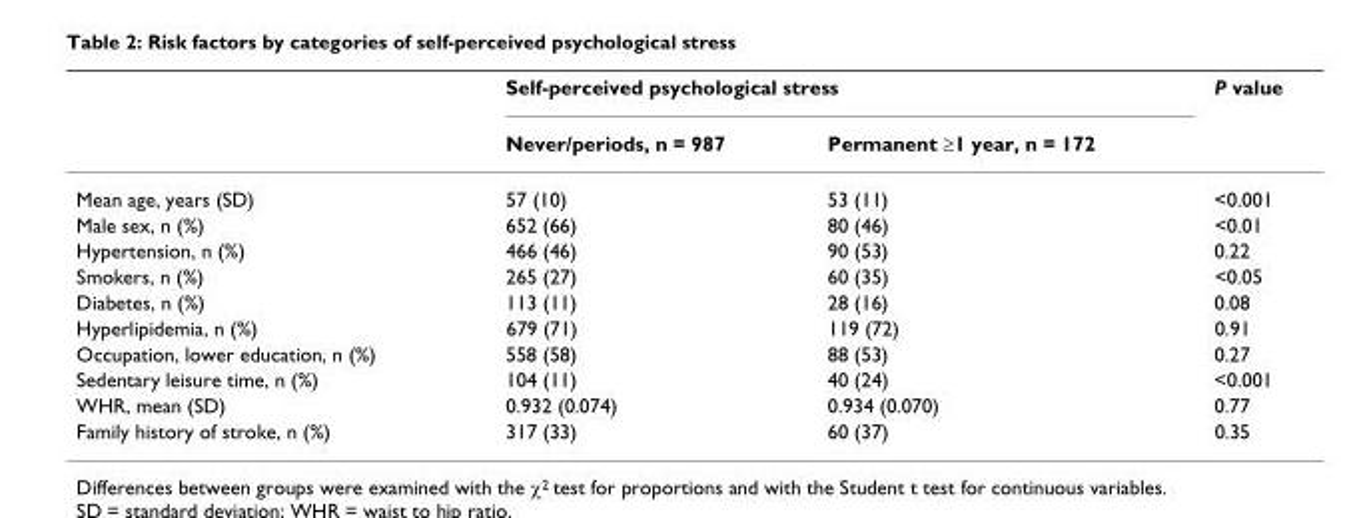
<table><thead><tr><td rowspan="2"></td><td colspan="2">Self-perceived psychological stress</td><td rowspan="2">P value</td></tr><tr><td>Never/periods, n = 987</td><td>Permanent ≥1 year, n = 172</td></tr></thead><tbody><tr><td>Mean age, years (SD)</td><td>57 (10)</td><td>53 (11)</td><td>&lt;0.001</td></tr><tr><td>Male sex, n (%)</td><td>652 (66)</td><td>80 (46)</td><td>&lt;0.01</td></tr><tr><td>Hypertension, n (%)</td><td>466 (46)</td><td>90 (53)</td><td>0.22</td></tr><tr><td>Smokers, n (%)</td><td>265 (27)</td><td>60 (35)</td><td>&lt;0.05</td></tr><tr><td>Diabetes, n (%)</td><td>113 (11)</td><td>28 (16)</td><td>0.08</td></tr><tr><td>Hyperlipidemia, n (%)</td><td>679 (71)</td><td>119 (72)</td><td>0.91</td></tr><tr><td>Occupation, lower education, n (%)</td><td>558 (58)</td><td>88 (53)</td><td>0.27</td></tr><tr><td>Sedentary leisure time, n (%)</td><td>104 (11)</td><td>40 (24)</td><td>&lt;0.001</td></tr><tr><td>WHR, mean (SD)</td><td>0.932 (0.074)</td><td>0.934 (0.070)</td><td>0.77</td></tr><tr><td>Family history of stroke, n (%)</td><td>317 (33)</td><td>60 (37)</td><td>0.35</td></tr></tbody></table>